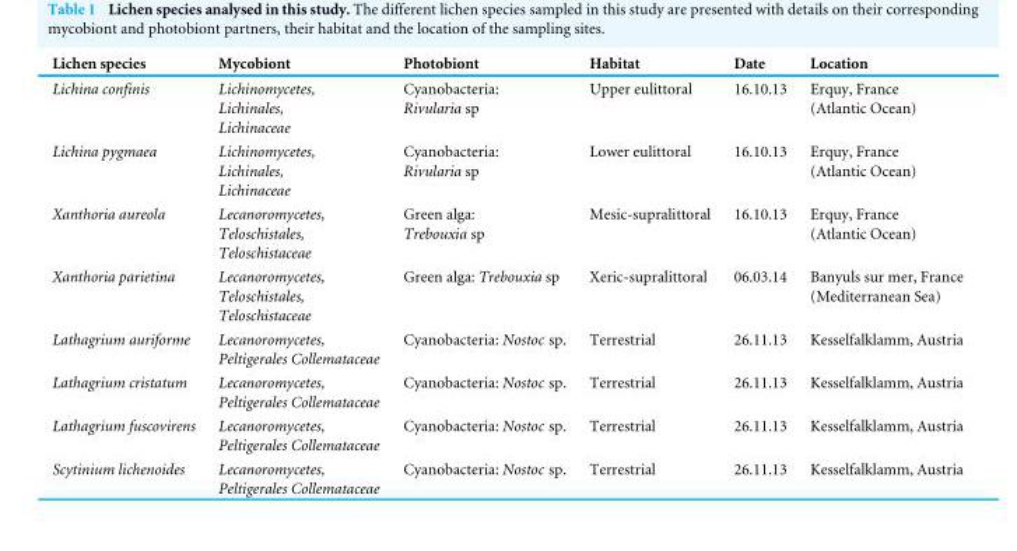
<table><thead><tr><td>Lichen species</td><td>Mycobiont</td><td>Photobiont</td><td>Habitat</td><td>Date</td><td>Location</td></tr></thead><tbody><tr><td>Lichina confinis</td><td>Lichinomycetes, Lichinales, Lichinaceae</td><td>Cyanobacteria: Rivularia sp</td><td>Upper eulittoral</td><td>16.10.13</td><td>Erquy, France (Atlantic Ocean)</td></tr><tr><td>Lichina pygmaea</td><td>Lichinomycetes, Lichinales, Lichinaceae</td><td>Cyanobacteria: Rivularia sp</td><td>Lower eulittoral</td><td>16.10.13</td><td>Erquy, France (Atlantic Ocean)</td></tr><tr><td>Xanthoria aureola</td><td>Lecanoromycetes, Teloschistales, Teloschistaceae</td><td>Green alga: Trebouxia sp</td><td>Mesic-supralittoral</td><td>16.10.13</td><td>Erquy, France (Atlantic Ocean)</td></tr><tr><td>Xanthoria parietina</td><td>Lecanoromycetes, Teloschistales, Teloschistaceae</td><td>Green alga: Trebouxia sp</td><td>Xeric-supralittoral</td><td>06.03.14</td><td>Banyuls sur mer, France (Mediterranean Sea)</td></tr><tr><td>Lathagrium auriforme</td><td>Lecanoromycetes, Peltigerales Collemataceae</td><td>Cyanobacteria: Nostoc sp.</td><td>Terrestrial</td><td>26.11.13</td><td>Kesselfalklamm, Austria</td></tr><tr><td>Lathagrium cristatum</td><td>Lecanoromycetes, Peltigerales Collemataceae</td><td>Cyanobacteria: Nostoc sp.</td><td>Terrestrial</td><td>26.11.13</td><td>Kesselfalklamm, Austria</td></tr><tr><td>Lathagrium fuscovirens</td><td>Lecanoromycetes, Peltigerales Collemataceae</td><td>Cyanobacteria: Nostoc sp.</td><td>Terrestrial</td><td>26.11.13</td><td>Kesselfalklamm, Austria</td></tr><tr><td>Scytinium lichenoides</td><td>Lecanoromycetes, Peltigerales Collemataceae</td><td>Cyanobacteria: Nostoc sp.</td><td>Terrestrial</td><td>26.11.13</td><td>Kesselfalklamm, Austria</td></tr></tbody></table>